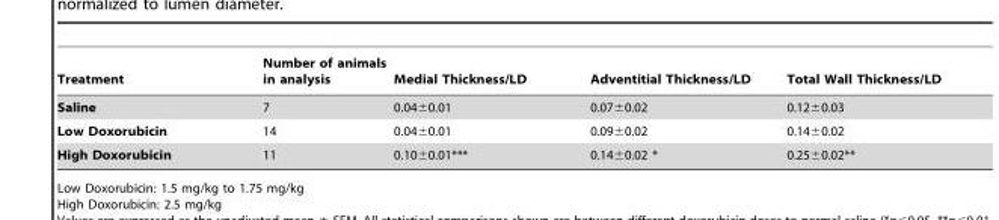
<table><thead><tr><td>Treatment</td><td>Number of animals in analysis</td><td>Medial Thickness/LD</td><td>Adventitial Thickness/LD</td><td>Total Wall Thickness/LD</td></tr></thead><tbody><tr><td>Saline</td><td>7</td><td>0.04±0.01</td><td>0.07±0.02</td><td>0.12±0.03</td></tr><tr><td>Low Doxorubicin</td><td>14</td><td>0.04±0.01</td><td>0.09±0.02</td><td>0.14±0.02</td></tr><tr><td>High Doxorubicin</td><td>11</td><td>0.10±0.01***</td><td>0.14±0.02 *</td><td>0.25±0.02**</td></tr></tbody></table>